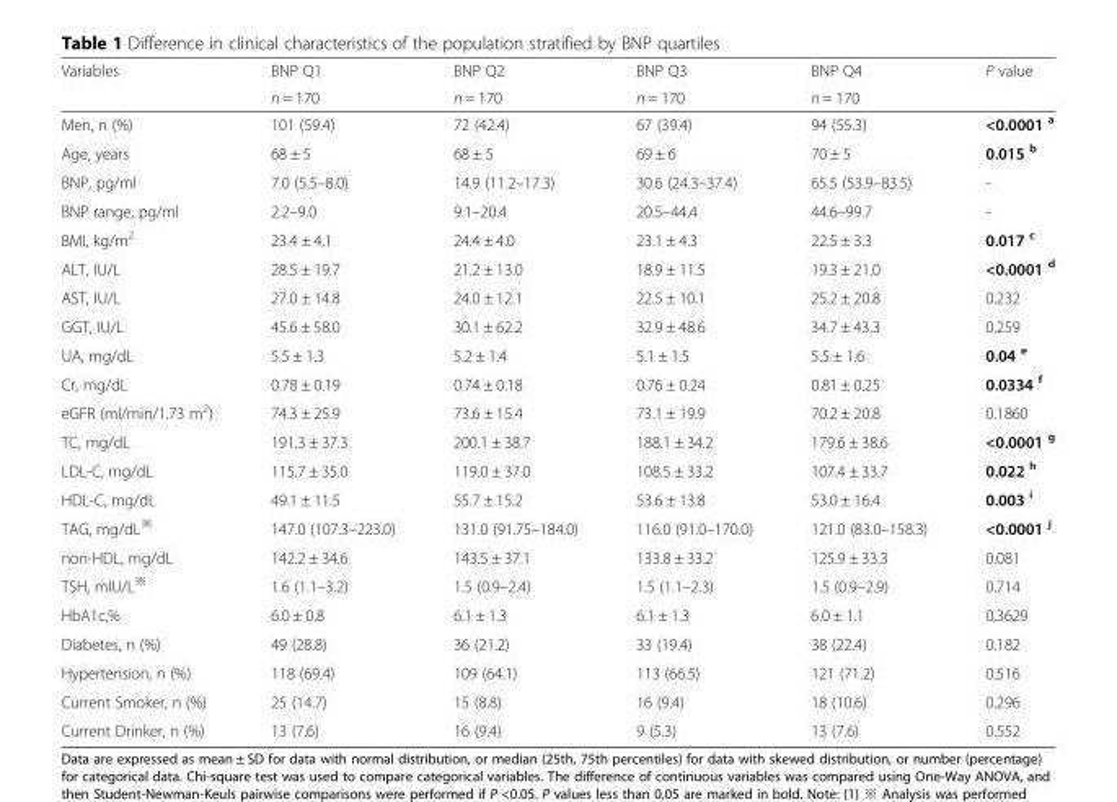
<table><thead><tr><td rowspan="2">Variables</td><td rowspan="2">BNP Q1 n = 170</td><td rowspan="2">BNP Q2 n = 170</td><td rowspan="2">BNP Q3 n = 170</td><td rowspan="2">BNP Q4 n = 170</td><td rowspan="2">P value</td></tr><tr></tr></thead><tbody><tr><td>Men, n (%)</td><td>101 (59.4)</td><td>72 (42.4)</td><td>67 (39.4)</td><td>94 (55.3)</td><td>&lt;0.0001 <sup>a</sup></td></tr><tr><td>Age, years</td><td>68 ± 5</td><td>68 ± 5</td><td>69 ± 6</td><td>70 ± 5</td><td>0.015 <sup>b</sup></td></tr><tr><td>BNP, pg/ml</td><td>7.0 (5.5–8.0)</td><td>14.9 (11.2–17.3)</td><td>30.6 (24.3–37.4)</td><td>65.5 (53.9–83.5)</td><td>-</td></tr><tr><td>BNP range, pg/ml</td><td>2.2–9.0</td><td>9.1–20.4</td><td>20.5–44.4</td><td>44.6–99.7</td><td>-</td></tr><tr><td>BMI, kg/m<sup>2</sup></td><td>23.4 ± 4.1</td><td>24.4 ± 4.0</td><td>23.1 ± 4.3</td><td>22.5 ± 3.3</td><td>0.017 <sup>c</sup></td></tr><tr><td>ALT, IU/L</td><td>28.5 ± 19.7</td><td>21.2 ± 13.0</td><td>18.9 ± 11.5</td><td>19.3 ± 21.0</td><td>&lt;0.0001 <sup>d</sup></td></tr><tr><td>AST, IU/L</td><td>27.0 ± 14.8</td><td>24.0 ± 12.1</td><td>22.5 ± 10.1</td><td>25.2 ± 20.8</td><td>0.232</td></tr><tr><td>GGT, IU/L</td><td>45.6 ± 58.0</td><td>30.1 ± 62.2</td><td>32.9 ± 48.6</td><td>34.7 ± 43.3</td><td>0.259</td></tr><tr><td>UA, mg/dL</td><td>5.5 ± 1.3</td><td>5.2 ± 1.4</td><td>5.1 ± 1.5</td><td>5.5 ± 1.6</td><td>0.04 <sup>e</sup></td></tr><tr><td>Cr, mg/dL</td><td>0.78 ± 0.19</td><td>0.74 ± 0.18</td><td>0.76 ± 0.24</td><td>0.81 ± 0.25</td><td>0.0334 <sup>f</sup></td></tr><tr><td>eGFR (ml/min/1.73 m<sup>2</sup>)</td><td>74.3 ± 25.9</td><td>73.6 ± 15.4</td><td>73.1 ± 19.9</td><td>70.2 ± 20.8</td><td>0.1860</td></tr><tr><td>TC, mg/dL</td><td>191.3 ± 37.3</td><td>200.1 ± 38.7</td><td>188.1 ± 34.2</td><td>179.6 ± 38.6</td><td>&lt;0.0001 <sup>g</sup></td></tr><tr><td>LDL-C, mg/dL</td><td>115.7 ± 35.0</td><td>119.0 ± 37.0</td><td>108.5 ± 33.2</td><td>107.4 ± 33.7</td><td>0.022 <sup>h</sup></td></tr><tr><td>HDL-C, mg/dL</td><td>49.1 ± 11.5</td><td>55.7 ± 15.2</td><td>53.6 ± 13.8</td><td>53.0 ± 16.4</td><td>0.003 <sup>i</sup></td></tr><tr><td>TAG, mg/dL<sup>※</sup></td><td>147.0 (107.3–223.0)</td><td>131.0 (91.75–184.0)</td><td>116.0 (91.0–170.0)</td><td>121.0 (83.0–158.3)</td><td>&lt;0.0001 <sup>j</sup></td></tr><tr><td>non-HDL, mg/dL</td><td>142.2 ± 34.6</td><td>143.5 ± 37.1</td><td>133.8 ± 33.2</td><td>125.9 ± 33.3</td><td>0.081</td></tr><tr><td>TSH, mIU/L<sup>※</sup></td><td>1.6 (1.1–3.2)</td><td>1.5 (0.9–2.4)</td><td>1.5 (1.1–2.3)</td><td>1.5 (0.9–2.9)</td><td>0.714</td></tr><tr><td>HbA1c,%</td><td>6.0 ± 0.8</td><td>6.1 ± 1.3</td><td>6.1 ± 1.3</td><td>6.0 ± 1.1</td><td>0.3629</td></tr><tr><td>Diabetes, n (%)</td><td>49 (28.8)</td><td>36 (21.2)</td><td>33 (19.4)</td><td>38 (22.4)</td><td>0.182</td></tr><tr><td>Hypertension, n (%)</td><td>118 (69.4)</td><td>109 (64.1)</td><td>113 (66.5)</td><td>121 (71.2)</td><td>0.516</td></tr><tr><td>Current Smoker, n (%)</td><td>25 (14.7)</td><td>15 (8.8)</td><td>16 (9.4)</td><td>18 (10.6)</td><td>0.296</td></tr><tr><td>Current Drinker, n (%)</td><td>13 (7.6)</td><td>16 (9.4)</td><td>9 (5.3)</td><td>13 (7.6)</td><td>0.552</td></tr></tbody></table>